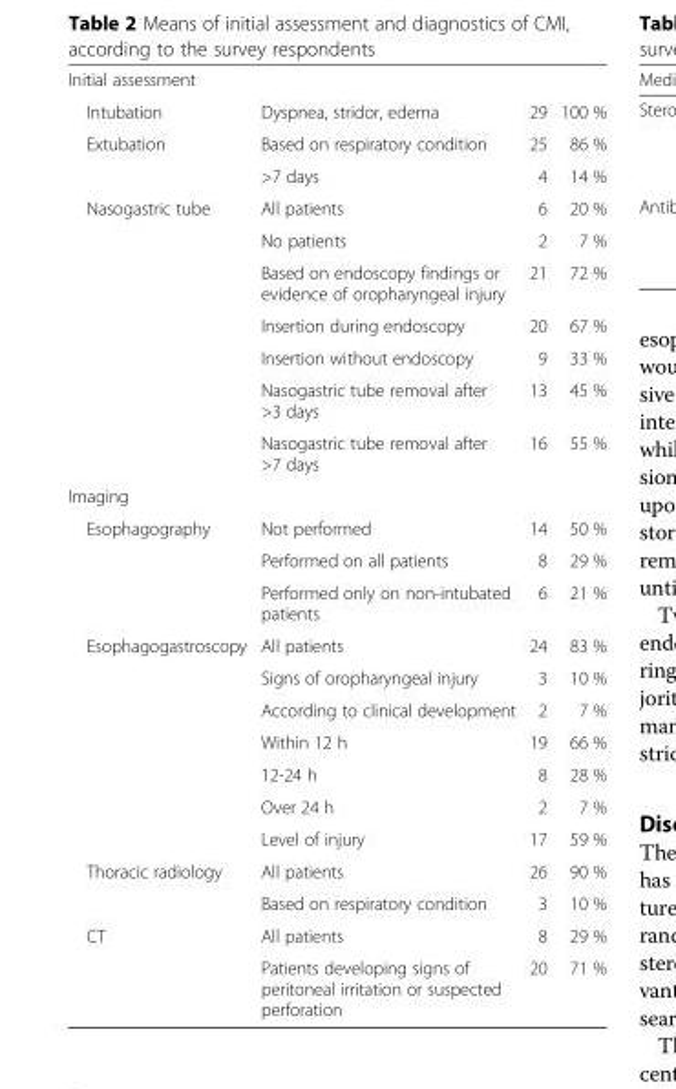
<table><tbody><tr><td colspan="4">Initial assessment</td></tr><tr><td>Intubation</td><td>Dyspnea, stridor, edema</td><td>29</td><td>100 %</td></tr><tr><td rowspan="2">Extubation</td><td>Based on respiratory condition</td><td>25</td><td>86 %</td></tr><tr><td>&gt;7 days</td><td>4</td><td>14 %</td></tr><tr><td rowspan="7">Nasogastric tube</td><td>All patients</td><td>6</td><td>20 %</td></tr><tr><td>No patients</td><td>2</td><td>7 %</td></tr><tr><td>Based on endoscopy findings or evidence of oropharyngeal injury</td><td>21</td><td>72 %</td></tr><tr><td>Insertion during endoscopy</td><td>20</td><td>67 %</td></tr><tr><td>Insertion without endoscopy</td><td>9</td><td>33 %</td></tr><tr><td>Nasogastric tube removal after &gt;3 days</td><td>13</td><td>45 %</td></tr><tr><td>Nasogastric tube removal after &gt;7 days</td><td>16</td><td>55 %</td></tr><tr><td colspan="4">Imaging</td></tr><tr><td rowspan="3">Esophagography</td><td>Not performed</td><td>14</td><td>50 %</td></tr><tr><td>Performed on all patients</td><td>8</td><td>29 %</td></tr><tr><td>Performed only on non-intubated patients</td><td>6</td><td>21 %</td></tr><tr><td rowspan="7">Esophagogastroscopy</td><td>All patients</td><td>24</td><td>83 %</td></tr><tr><td>Signs of oropharyngeal injury</td><td>3</td><td>10 %</td></tr><tr><td>According to clinical development</td><td>2</td><td>7 %</td></tr><tr><td>Within 12 h</td><td>19</td><td>66 %</td></tr><tr><td>12-24 h</td><td>8</td><td>28 %</td></tr><tr><td>Over 24 h</td><td>2</td><td>7 %</td></tr><tr><td>Level of injury</td><td>17</td><td>59 %</td></tr><tr><td rowspan="2">Thoracic radiology</td><td>All patients</td><td>26</td><td>90 %</td></tr><tr><td>Based on respiratory condition</td><td>3</td><td>10 %</td></tr><tr><td rowspan="2">CT</td><td>All patients</td><td>8</td><td>29 %</td></tr><tr><td>Patients developing signs of peritoneal irritation or suspected perforation</td><td>20</td><td>71 %</td></tr></tbody></table>